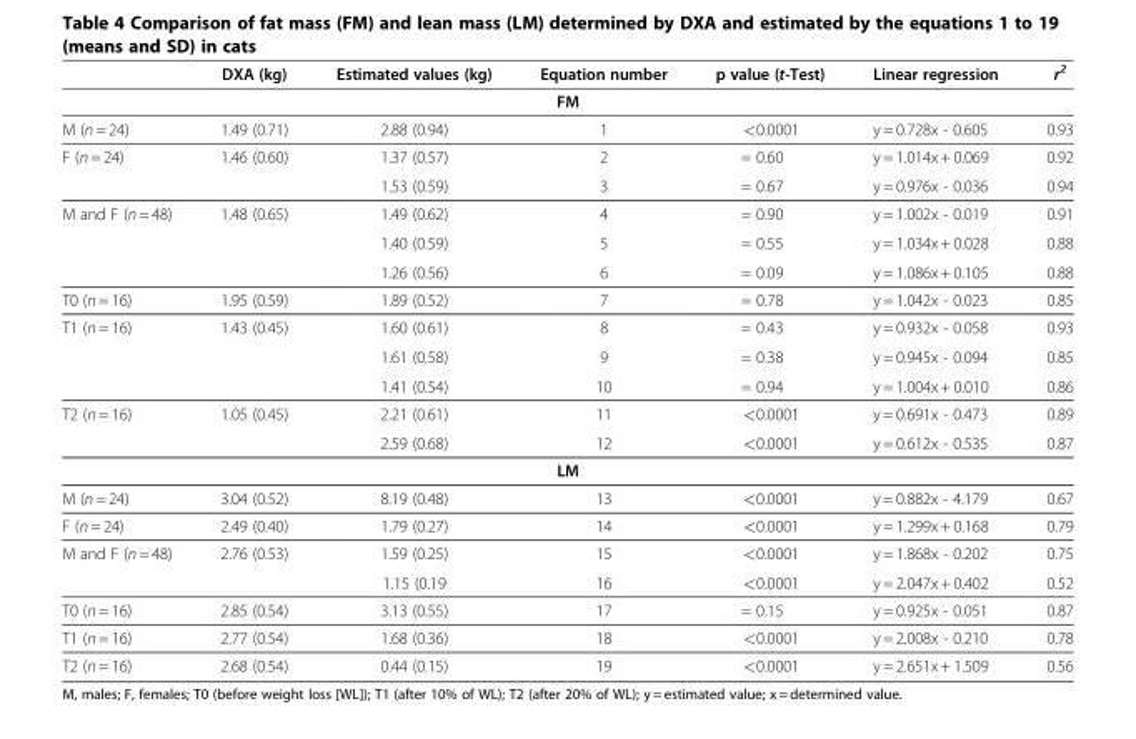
<table><thead><tr><td></td><td>DXA (kg)</td><td>Estimated values (kg)</td><td>Equation number</td><td>p value (t-Test)</td><td>Linear regression</td><td>r<sup>2</sup></td></tr></thead><tbody><tr><td colspan="7">FM</td></tr><tr><td>M (n = 24)</td><td>1.49 (0.71)</td><td>2.88 (0.94)</td><td>1</td><td>&lt;0.0001</td><td>y = 0.728x - 0.605</td><td>0.93</td></tr><tr><td rowspan="2">F (n = 24)</td><td>1.46 (0.60)</td><td>1.37 (0.57)</td><td>2</td><td>= 0.60</td><td>y = 1.014x + 0.069</td><td>0.92</td></tr><tr><td></td><td>1.53 (0.59)</td><td>3</td><td>= 0.67</td><td>y = 0.976x - 0.036</td><td>0.94</td></tr><tr><td rowspan="3">M and F (n = 48)</td><td>1.48 (0.65)</td><td>1.49 (0.62)</td><td>4</td><td>= 0.90</td><td>y = 1.002x - 0.019</td><td>0.91</td></tr><tr><td></td><td>1.40 (0.59)</td><td>5</td><td>= 0.55</td><td>y = 1.034x + 0.028</td><td>0.88</td></tr><tr><td></td><td>1.26 (0.56)</td><td>6</td><td>= 0.09</td><td>y = 1.086x + 0.105</td><td>0.88</td></tr><tr><td>T0 (n = 16)</td><td>1.95 (0.59)</td><td>1.89 (0.52)</td><td>7</td><td>= 0.78</td><td>y = 1.042x - 0.023</td><td>0.85</td></tr><tr><td rowspan="3">T1 (n = 16)</td><td>1.43 (0.45)</td><td>1.60 (0.61)</td><td>8</td><td>= 0.43</td><td>y = 0.932x - 0.058</td><td>0.93</td></tr><tr><td></td><td>1.61 (0.58)</td><td>9</td><td>= 0.38</td><td>y = 0.945x - 0.094</td><td>0.85</td></tr><tr><td></td><td>1.41 (0.54)</td><td>10</td><td>= 0.94</td><td>y = 1.004x + 0.010</td><td>0.86</td></tr><tr><td rowspan="2">T2 (n = 16)</td><td>1.05 (0.45)</td><td>2.21 (0.61)</td><td>11</td><td>&lt;0.0001</td><td>y = 0.691x - 0.473</td><td>0.89</td></tr><tr><td></td><td>2.59 (0.68)</td><td>12</td><td>&lt;0.0001</td><td>y = 0.612x - 0.535</td><td>0.87</td></tr><tr><td colspan="7">LM</td></tr><tr><td>M (n = 24)</td><td>3.04 (0.52)</td><td>8.19 (0.48)</td><td>13</td><td>&lt;0.0001</td><td>y = 0.882x - 4.179</td><td>0.67</td></tr><tr><td>F (n = 24)</td><td>2.49 (0.40)</td><td>1.79 (0.27)</td><td>14</td><td>&lt;0.0001</td><td>y = 1.299x + 0.168</td><td>0.79</td></tr><tr><td rowspan="2">M and F (n = 48)</td><td>2.76 (0.53)</td><td>1.59 (0.25)</td><td>15</td><td>&lt;0.0001</td><td>y = 1.868x - 0.202</td><td>0.75</td></tr><tr><td></td><td>1.15 (0.19</td><td>16</td><td>&lt;0.0001</td><td>y = 2.047x + 0.402</td><td>0.52</td></tr><tr><td>T0 (n = 16)</td><td>2.85 (0.54)</td><td>3.13 (0.55)</td><td>17</td><td>= 0.15</td><td>y = 0.925x - 0.051</td><td>0.87</td></tr><tr><td>T1 (n = 16)</td><td>2.77 (0.54)</td><td>1.68 (0.36)</td><td>18</td><td>&lt;0.0001</td><td>y = 2.008x - 0.210</td><td>0.78</td></tr><tr><td>T2 (n = 16)</td><td>2.68 (0.54)</td><td>0.44 (0.15)</td><td>19</td><td>&lt;0.0001</td><td>y = 2.651x + 1.509</td><td>0.56</td></tr></tbody></table>